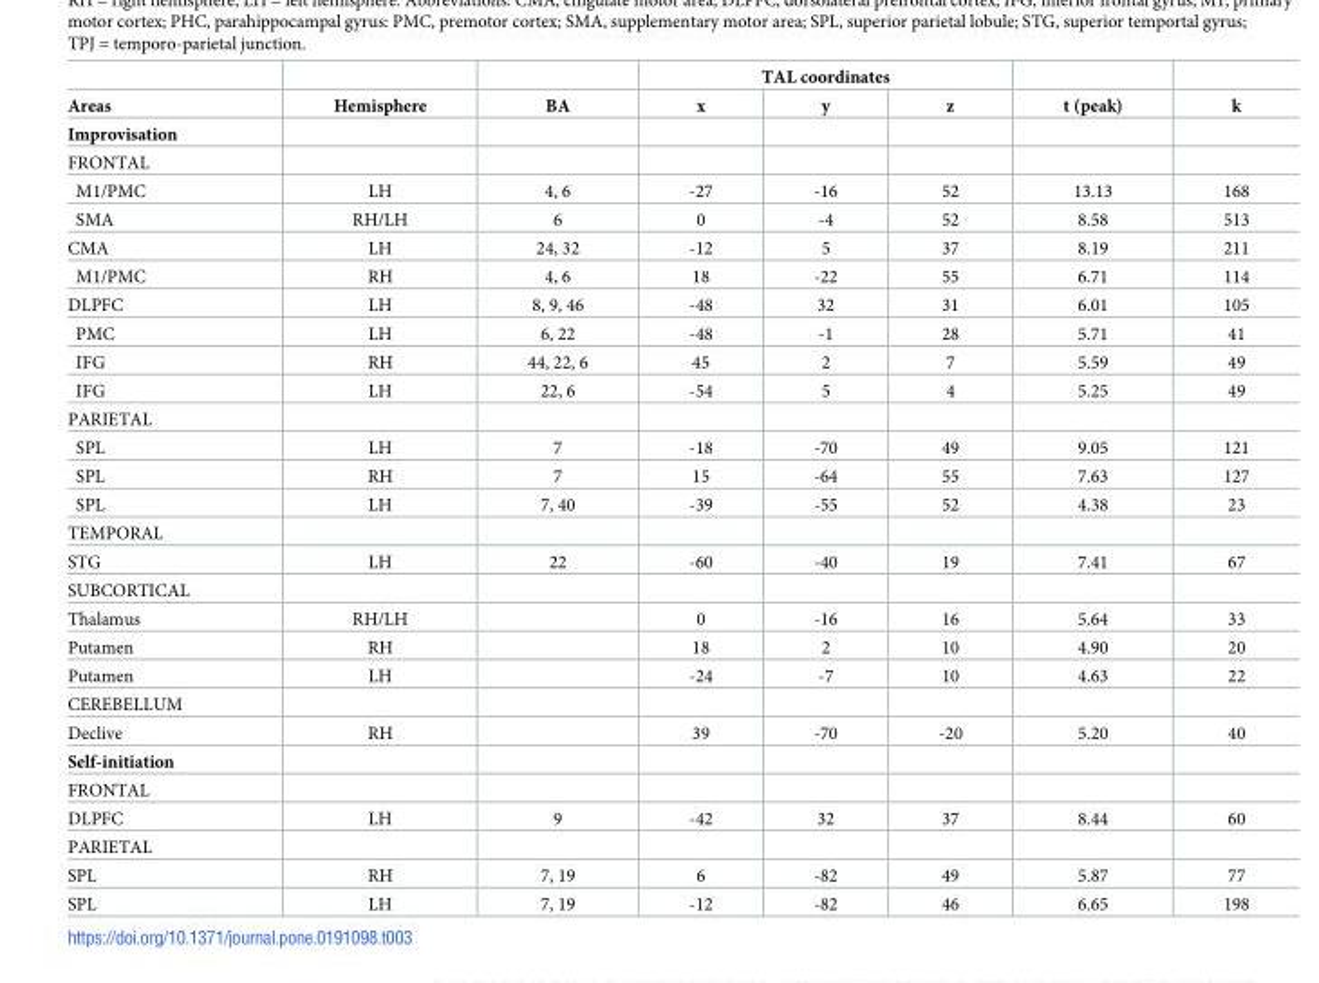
<table><thead><tr><td rowspan="2">Areas</td><td rowspan="2">Hemisphere</td><td rowspan="2">BA</td><td colspan="3">TAL coordinates</td><td rowspan="2">t (peak)</td><td rowspan="2">k</td></tr><tr><td>x</td><td>y</td><td>z</td></tr></thead><tbody><tr><td colspan="8">Improvisation</td></tr><tr><td colspan="8">FRONTAL</td></tr><tr><td>M1/PMC</td><td>LH</td><td>4, 6</td><td>-27</td><td>-16</td><td>52</td><td>13.13</td><td>168</td></tr><tr><td>SMA</td><td>RH/LH</td><td>6</td><td>0</td><td>-4</td><td>52</td><td>8.58</td><td>513</td></tr><tr><td>CMA</td><td>LH</td><td>24, 32</td><td>-12</td><td>5</td><td>37</td><td>8.19</td><td>211</td></tr><tr><td>M1/PMC</td><td>RH</td><td>4, 6</td><td>18</td><td>-22</td><td>55</td><td>6.71</td><td>114</td></tr><tr><td>DLPFC</td><td>LH</td><td>8, 9, 46</td><td>-48</td><td>32</td><td>31</td><td>6.01</td><td>105</td></tr><tr><td>PMC</td><td>LH</td><td>6, 22</td><td>-48</td><td>-1</td><td>28</td><td>5.71</td><td>41</td></tr><tr><td>IFG</td><td>RH</td><td>44, 22, 6</td><td>45</td><td>2</td><td>7</td><td>5.59</td><td>49</td></tr><tr><td>IFG</td><td>LH</td><td>22, 6</td><td>-54</td><td>5</td><td>4</td><td>5.25</td><td>49</td></tr><tr><td colspan="8">PARIETAL</td></tr><tr><td>SPL</td><td>LH</td><td>7</td><td>-18</td><td>-70</td><td>49</td><td>9.05</td><td>121</td></tr><tr><td>SPL</td><td>RH</td><td>7</td><td>15</td><td>-64</td><td>55</td><td>7.63</td><td>127</td></tr><tr><td>SPL</td><td>LH</td><td>7, 40</td><td>-39</td><td>-55</td><td>52</td><td>4.38</td><td>23</td></tr><tr><td colspan="8">TEMPORAL</td></tr><tr><td>STG</td><td>LH</td><td>22</td><td>-60</td><td>-40</td><td>19</td><td>7.41</td><td>67</td></tr><tr><td colspan="8">SUBCORTICAL</td></tr><tr><td>Thalamus</td><td>RH/LH</td><td></td><td>0</td><td>-16</td><td>16</td><td>5.64</td><td>33</td></tr><tr><td>Putamen</td><td>RH</td><td></td><td>18</td><td>2</td><td>10</td><td>4.90</td><td>20</td></tr><tr><td>Putamen</td><td>LH</td><td></td><td>-24</td><td>-7</td><td>10</td><td>4.63</td><td>22</td></tr><tr><td colspan="8">CEREBELLUM</td></tr><tr><td>Declive</td><td>RH</td><td></td><td>39</td><td>-70</td><td>-20</td><td>5.20</td><td>40</td></tr><tr><td colspan="8">Self-initiation</td></tr><tr><td colspan="8">FRONTAL</td></tr><tr><td>DLPFC</td><td>LH</td><td>9</td><td>-42</td><td>32</td><td>37</td><td>8.44</td><td>60</td></tr><tr><td colspan="8">PARIETAL</td></tr><tr><td>SPL</td><td>RH</td><td>7, 19</td><td>6</td><td>-82</td><td>49</td><td>5.87</td><td>77</td></tr><tr><td>SPL</td><td>LH</td><td>7, 19</td><td>-12</td><td>-82</td><td>46</td><td>6.65</td><td>198</td></tr></tbody></table>